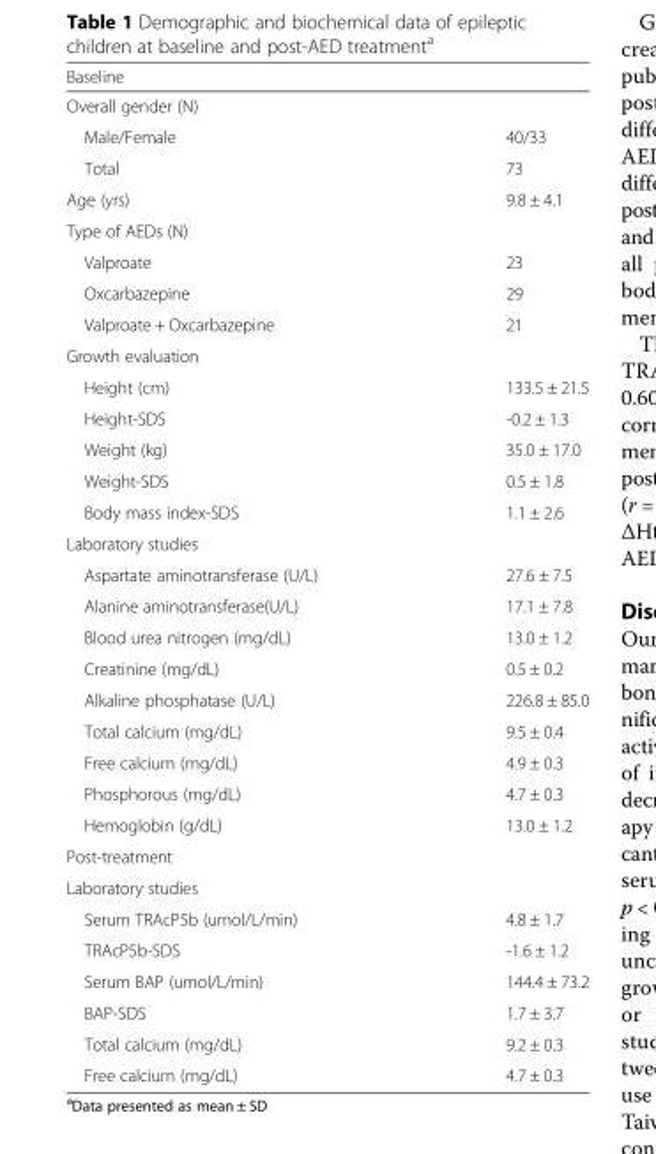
<table><thead><tr><td colspan="2">Baseline</td></tr><tr><td>Overall gender (N)</td><td></td></tr></thead><tbody><tr><td>Male/Female</td><td>40/33</td></tr><tr><td>Total</td><td>73</td></tr><tr><td>Age (yrs)</td><td>9.8 ± 4.1</td></tr><tr><td colspan="2">Type of AEDs (N)</td></tr><tr><td>Valproate</td><td>23</td></tr><tr><td>Oxcarbazepine</td><td>29</td></tr><tr><td>Valproate + Oxcarbazepine</td><td>21</td></tr><tr><td colspan="2">Growth evaluation</td></tr><tr><td>Height (cm)</td><td>133.5 ± 21.5</td></tr><tr><td>Height-SDS</td><td>-0.2 ± 1.3</td></tr><tr><td>Weight (kg)</td><td>35.0 ± 17.0</td></tr><tr><td>Weight-SDS</td><td>0.5 ± 1.8</td></tr><tr><td>Body mass index-SDS</td><td>1.1 ± 2.6</td></tr><tr><td colspan="2">Laboratory studies</td></tr><tr><td>Aspartate aminotransferase (U/L)</td><td>27.6 ± 7.5</td></tr><tr><td>Alanine aminotransferase(U/L)</td><td>17.1 ± 7.8</td></tr><tr><td>Blood urea nitrogen (mg/dL)</td><td>13.0 ± 1.2</td></tr><tr><td>Creatinine (mg/dL)</td><td>0.5 ± 0.2</td></tr><tr><td>Alkaline phosphatase (U/L)</td><td>226.8 ± 85.0</td></tr><tr><td>Total calcium (mg/dL)</td><td>9.5 ± 0.4</td></tr><tr><td>Free calcium (mg/dL)</td><td>4.9 ± 0.3</td></tr><tr><td>Phosphorous (mg/dL)</td><td>4.7 ± 0.3</td></tr><tr><td>Hemoglobin (g/dL)</td><td>13.0 ± 1.2</td></tr><tr><td colspan="2">Post-treatment</td></tr><tr><td colspan="2">Laboratory studies</td></tr><tr><td>Serum TRAcP5b (umol/L/min)</td><td>4.8 ± 1.7</td></tr><tr><td>TRAcP5b-SDS</td><td>-1.6 ± 1.2</td></tr><tr><td>Serum BAP (umol/L/min)</td><td>144.4 ± 73.2</td></tr><tr><td>BAP-SDS</td><td>1.7 ± 3.7</td></tr><tr><td>Total calcium (mg/dL)</td><td>9.2 ± 0.3</td></tr><tr><td>Free calcium (mg/dL)</td><td>4.7 ± 0.3</td></tr></tbody></table>